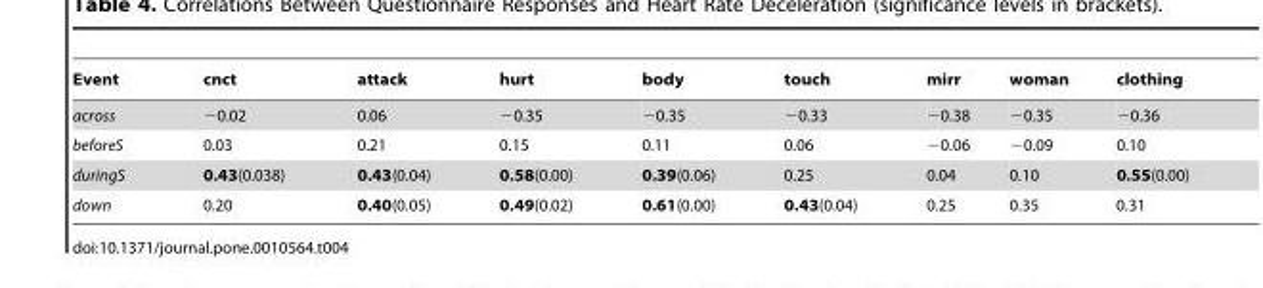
<table><thead><tr><td>Event</td><td>cnct</td><td>attack</td><td>hurt</td><td>body</td><td>touch</td><td>mirr</td><td>woman</td><td>clothing</td></tr></thead><tbody><tr><td>across</td><td>−0.02</td><td>0.06</td><td>−0.35</td><td>−0.35</td><td>−0.33</td><td>−0.38</td><td>−0.35</td><td>−0.36</td></tr><tr><td>beforeS</td><td>0.03</td><td>0.21</td><td>0.15</td><td>0.11</td><td>0.06</td><td>−0.06</td><td>−0.09</td><td>0.10</td></tr><tr><td>duringS</td><td>0.43(0.038)</td><td>0.43(0.04)</td><td>0.58(0.00)</td><td>0.39(0.06)</td><td>0.25</td><td>0.04</td><td>0.10</td><td>0.55(0.00)</td></tr><tr><td>down</td><td>0.20</td><td>0.40(0.05)</td><td>0.49(0.02)</td><td>0.61(0.00)</td><td>0.43(0.04)</td><td>0.25</td><td>0.35</td><td>0.31</td></tr></tbody></table>